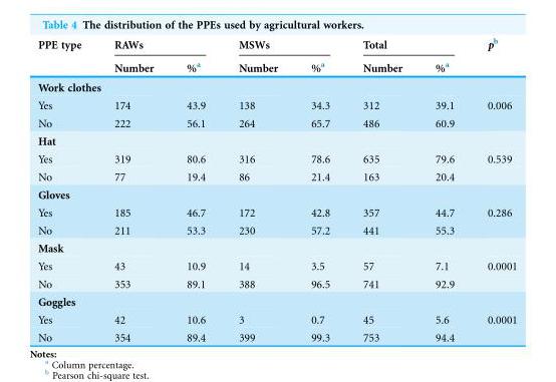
<table><thead><tr><td rowspan="2">PPE type</td><td colspan="2">RAWs</td><td colspan="2">MSWs</td><td colspan="2">Total</td><td rowspan="2">p<sup>b</sup></td></tr><tr><td>Number</td><td>%<sup>a</sup></td><td>Number</td><td>%<sup>a</sup></td><td>Number</td><td>%<sup>a</sup></td></tr></thead><tbody><tr><td colspan="8">Work clothes</td></tr><tr><td>Yes</td><td>174</td><td>43.9</td><td>138</td><td>34.3</td><td>312</td><td>39.1</td><td>0.006</td></tr><tr><td>No</td><td>222</td><td>56.1</td><td>264</td><td>65.7</td><td>486</td><td>60.9</td><td></td></tr><tr><td colspan="8">Hat</td></tr><tr><td>Yes</td><td>319</td><td>80.6</td><td>316</td><td>78.6</td><td>635</td><td>79.6</td><td>0.539</td></tr><tr><td>No</td><td>77</td><td>19.4</td><td>86</td><td>21.4</td><td>163</td><td>20.4</td><td></td></tr><tr><td colspan="8">Gloves</td></tr><tr><td>Yes</td><td>185</td><td>46.7</td><td>172</td><td>42.8</td><td>357</td><td>44.7</td><td>0.286</td></tr><tr><td>No</td><td>211</td><td>53.3</td><td>230</td><td>57.2</td><td>441</td><td>55.3</td><td></td></tr><tr><td colspan="8">Mask</td></tr><tr><td>Yes</td><td>43</td><td>10.9</td><td>14</td><td>3.5</td><td>57</td><td>7.1</td><td>0.0001</td></tr><tr><td>No</td><td>353</td><td>89.1</td><td>388</td><td>96.5</td><td>741</td><td>92.9</td><td></td></tr><tr><td colspan="8">Goggles</td></tr><tr><td>Yes</td><td>42</td><td>10.6</td><td>3</td><td>0.7</td><td>45</td><td>5.6</td><td>0.0001</td></tr><tr><td>No</td><td>354</td><td>89.4</td><td>399</td><td>99.3</td><td>753</td><td>94.4</td><td></td></tr></tbody></table>